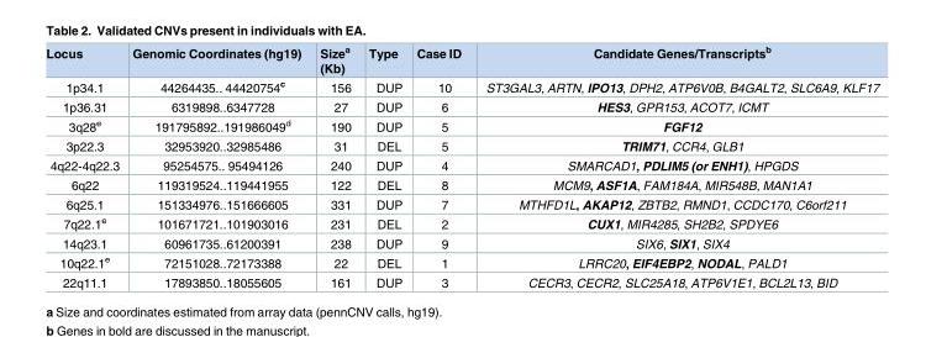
<table><thead><tr><td>Locus</td><td>Genomic Coordinates (hg19)</td><td>Size<sup>a</sup> (Kb)</td><td>Type</td><td>Case ID</td><td>Candidate Genes/Transcripts<sup>b</sup></td></tr></thead><tbody><tr><td>1p34.1</td><td>44264435.. 44420754<sup>c</sup></td><td>156</td><td>DUP</td><td>10</td><td>ST3GAL3, ARTN, IPO13, DPH2, ATP6V0B, B4GALT2, SLC6A9, KLF17</td></tr><tr><td>1p36.31</td><td>6319898..6347728</td><td>27</td><td>DUP</td><td>6</td><td>HES3, GPR153, ACOT7, ICMT</td></tr><tr><td>3q28<sup>e</sup></td><td>191795892..191986049<sup>d</sup></td><td>190</td><td>DUP</td><td>5</td><td>FGF12</td></tr><tr><td>3p22.3</td><td>32953920..32985486</td><td>31</td><td>DEL</td><td>5</td><td>TRIM71, CCR4, GLB1</td></tr><tr><td>4q22-4q22.3</td><td>95254575.. 95494126</td><td>240</td><td>DUP</td><td>4</td><td>SMARCAD1, PDLIM5 (or ENH1), HPGDS</td></tr><tr><td>6q22</td><td>119319524..119441955</td><td>122</td><td>DEL</td><td>8</td><td>MCM9, ASF1A, FAM184A, MIR548B, MAN1A1</td></tr><tr><td>6q25.1</td><td>151334976..151666605</td><td>331</td><td>DUP</td><td>7</td><td>MTHFD1L, AKAP12, ZBTB2, RMND1, CCDC170, C6orf211</td></tr><tr><td>7q22.1<sup>e</sup></td><td>101671721..101903016</td><td>231</td><td>DEL</td><td>2</td><td>CUX1, MIR4285, SH2B2, SPDYE6</td></tr><tr><td>14q23.1</td><td>60961735..61200391</td><td>238</td><td>DUP</td><td>9</td><td>SIX6, SIX1, SIX4</td></tr><tr><td>10q22.1<sup>e</sup></td><td>72151028..72173388</td><td>22</td><td>DEL</td><td>1</td><td>LRRC20, EIF4EBP2, NODAL, PALD1</td></tr><tr><td>22q11.1</td><td>17893850..18055605</td><td>161</td><td>DUP</td><td>3</td><td>CECR3, CECR2, SLC25A18, ATP6V1E1, BCL2L13, BID</td></tr></tbody></table>